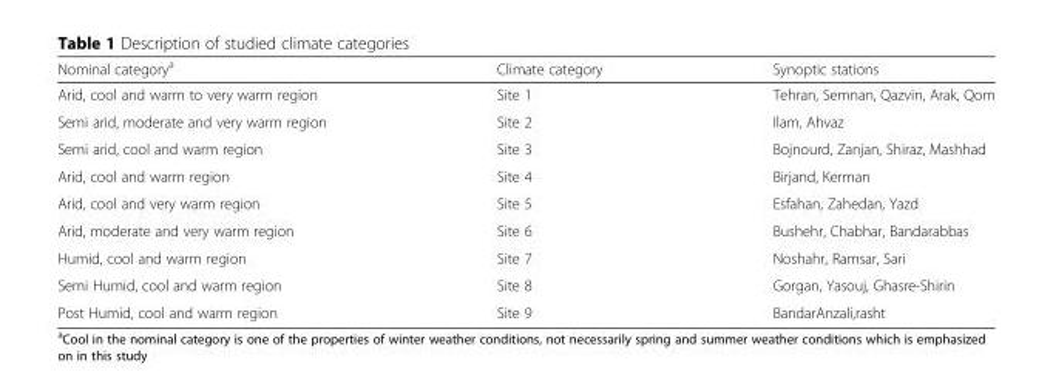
<table><thead><tr><td>Nominal category<sup>a</sup></td><td>Climate category</td><td>Synoptic stations</td></tr></thead><tbody><tr><td>Arid, cool and warm to very warm region</td><td>Site 1</td><td>Tehran, Semnan, Qazvin, Arak, Qom</td></tr><tr><td>Semi arid, moderate and very warm region</td><td>Site 2</td><td>Ilam, Ahvaz</td></tr><tr><td>Semi arid, cool and warm region</td><td>Site 3</td><td>Bojnourd, Zanjan, Shiraz, Mashhad</td></tr><tr><td>Arid, cool and warm region</td><td>Site 4</td><td>Birjand, Kerman</td></tr><tr><td>Arid, cool and very warm region</td><td>Site 5</td><td>Esfahan, Zahedan, Yazd</td></tr><tr><td>Arid, moderate and very warm region</td><td>Site 6</td><td>Bushehr, Chabhar, Bandarabbas</td></tr><tr><td>Humid, cool and warm region</td><td>Site 7</td><td>Noshahr, Ramsar, Sari</td></tr><tr><td>Semi Humid, cool and warm region</td><td>Site 8</td><td>Gorgan, Yasouj, Ghasre-Shirin</td></tr><tr><td>Post Humid, cool and warm region</td><td>Site 9</td><td>BandarAnzali,rasht</td></tr></tbody></table>